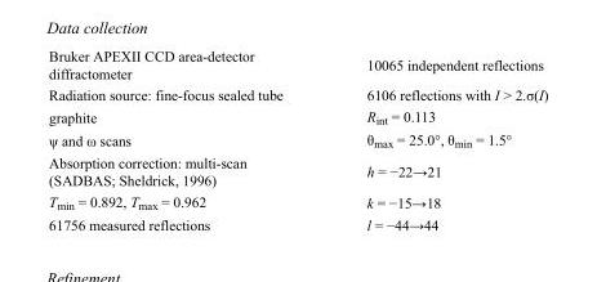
<table><tbody><tr><td>Bruker APEXII CCD area-detector diffractometer</td><td>10065 independent reflections</td></tr><tr><td>Radiation source: fine-focus sealed tube</td><td>6106 reflections with I &gt; 2.σ(I)</td></tr><tr><td>graphite</td><td>R<sub>int</sub> = 0.113</td></tr><tr><td>ψ and ω scans</td><td>θ<sub>max</sub> = 25.0°, θ<sub>min</sub> = 1.5°</td></tr><tr><td>Absorption correction: multi-scan (SADBAS; Sheldrick, 1996)</td><td>h = −22→21</td></tr><tr><td>T<sub>min</sub> = 0.892, T<sub>max</sub> = 0.962</td><td>k = −15→18</td></tr><tr><td>61756 measured reflections</td><td>l = −44→44</td></tr></tbody></table>